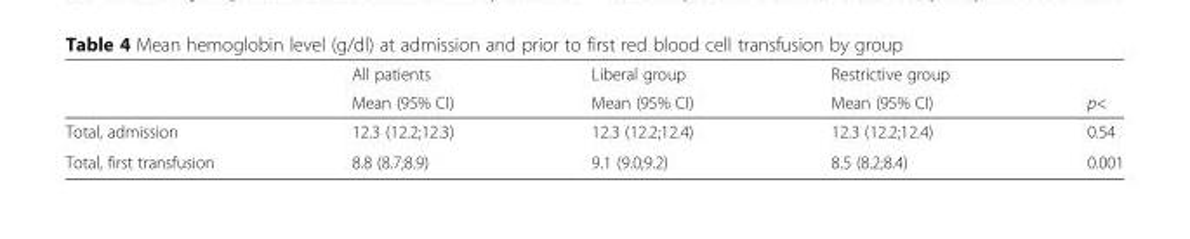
<table><thead><tr><td rowspan="2"></td><td rowspan="2">All patients Mean (95% CI)</td><td rowspan="2">Liberal group Mean (95% CI)</td><td rowspan="2">Restrictive group Mean (95% CI)</td><td rowspan="2">p&lt;</td></tr><tr></tr></thead><tbody><tr><td>Total, admission</td><td>12.3 (12.2;12.3)</td><td>12.3 (12.2;12.4)</td><td>12.3 (12.2;12.4)</td><td>0.54</td></tr><tr><td>Total, first transfusion</td><td>8.8 (8.7;8.9)</td><td>9.1 (9.0;9.2)</td><td>8.5 (8.2;8.4)</td><td>0.001</td></tr></tbody></table>